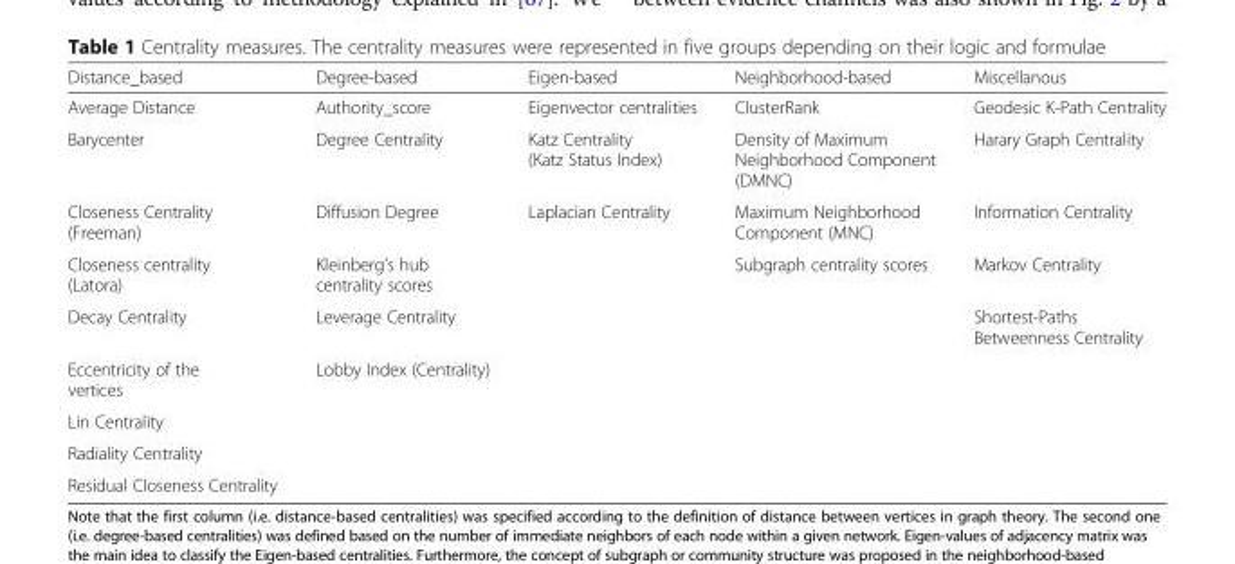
<table><thead><tr><td>Distance_based</td><td>Degree-based</td><td>Eigen-based</td><td>Neighborhood-based</td><td>Miscellanous</td></tr></thead><tbody><tr><td>Average Distance</td><td>Authority_score</td><td>Eigenvector centralities</td><td>ClusterRank</td><td>Geodesic K-Path Centrality</td></tr><tr><td>Barycenter</td><td>Degree Centrality</td><td>Katz Centrality (Katz Status Index)</td><td>Density of Maximum Neighborhood Component (DMNC)</td><td>Harary Graph Centrality</td></tr><tr><td>Closeness Centrality (Freeman)</td><td>Diffusion Degree</td><td>Laplacian Centrality</td><td>Maximum Neighborhood Component (MNC)</td><td>Information Centrality</td></tr><tr><td>Closeness centrality (Latora)</td><td>Kleinberg’s hub centrality scores</td><td></td><td>Subgraph centrality scores</td><td>Markov Centrality</td></tr><tr><td>Decay Centrality</td><td>Leverage Centrality</td><td colspan="2"></td><td>Shortest-Paths Betweenness Centrality</td></tr><tr><td>Eccentricity of the vertices</td><td>Lobby Index (Centrality)</td><td colspan="3"></td></tr><tr><td colspan="5">Lin Centrality</td></tr><tr><td colspan="5">Radiality Centrality</td></tr><tr><td>Residual Closeness Centrality</td><td></td><td></td><td></td><td></td></tr></tbody></table>